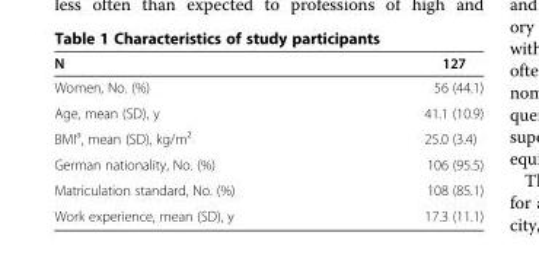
<table><thead><tr><td>N</td><td>127</td></tr></thead><tbody><tr><td>Women, No. (%)</td><td>56 (44.1)</td></tr><tr><td>Age, mean (SD), y</td><td>41.1 (10.9)</td></tr><tr><td>BMI<sup>a</sup>, mean (SD), kg/m²</td><td>25.0 (3.4)</td></tr><tr><td>German nationality, No. (%)</td><td>106 (95.5)</td></tr><tr><td>Matriculation standard, No. (%)</td><td>108 (85.1)</td></tr><tr><td>Work experience, mean (SD), y</td><td>17.3 (11.1)</td></tr></tbody></table>